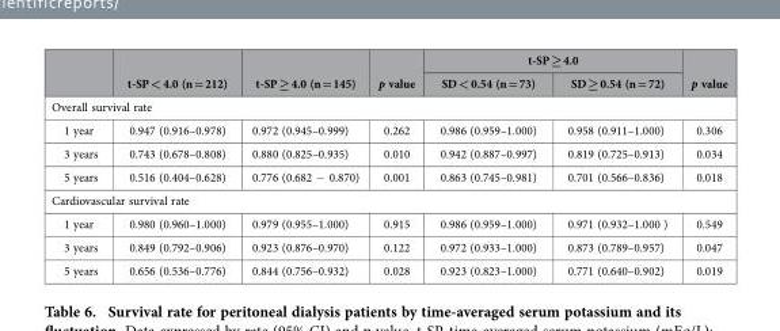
<table><thead><tr><td rowspan="2"></td><td rowspan="2">t-SP &lt; 4.0 (n = 212)</td><td rowspan="2">t-SP ≥ 4.0 (n = 145)</td><td rowspan="2">p value</td><td colspan="2">t-SP ≥ 4.0</td><td rowspan="2">p value</td></tr><tr><td>SD &lt; 0.54 (n = 73)</td><td>SD ≥ 0.54 (n = 72)</td></tr></thead><tbody><tr><td colspan="7">Overall survival rate</td></tr><tr><td>1 year</td><td>0.947 (0.916–0.978)</td><td>0.972 (0.945–0.999)</td><td>0.262</td><td>0.986 (0.959–1.000)</td><td>0.958 (0.911–1.000)</td><td>0.306</td></tr><tr><td>3 years</td><td>0.743 (0.678–0.808)</td><td>0.880 (0.825–0.935)</td><td>0.010</td><td>0.942 (0.887–0.997)</td><td>0.819 (0.725–0.913)</td><td>0.034</td></tr><tr><td>5 years</td><td>0.516 (0.404–0.628)</td><td>0.776 (0.682 − 0.870)</td><td>0.001</td><td>0.863 (0.745–0.981)</td><td>0.701 (0.566–0.836)</td><td>0.018</td></tr><tr><td colspan="7">Cardiovascular survival rate</td></tr><tr><td>1 year</td><td>0.980 (0.960–1.000)</td><td>0.979 (0.955–1.000)</td><td>0.915</td><td>0.986 (0.959–1.000)</td><td>0.971 (0.932–1.000 )</td><td>0.549</td></tr><tr><td>3 years</td><td>0.849 (0.792–0.906)</td><td>0.923 (0.876–0.970)</td><td>0.122</td><td>0.972 (0.933–1.000)</td><td>0.873 (0.789–0.957)</td><td>0.047</td></tr><tr><td>5 years</td><td>0.656 (0.536–0.776)</td><td>0.844 (0.756–0.932)</td><td>0.028</td><td>0.923 (0.823–1.000)</td><td>0.771 (0.640–0.902)</td><td>0.019</td></tr></tbody></table>